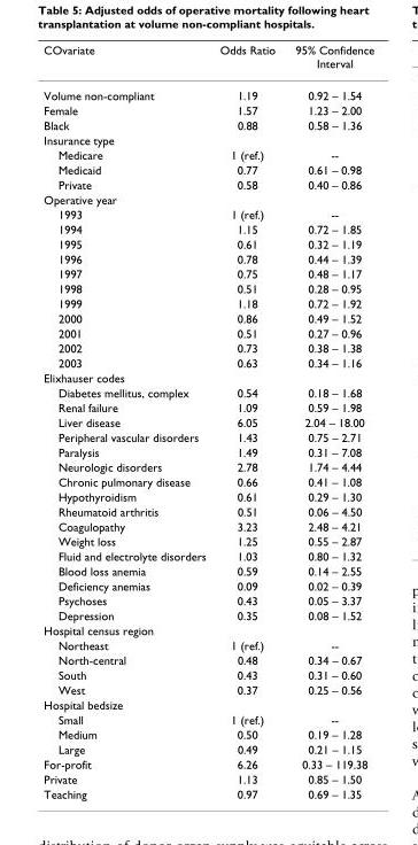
<table><thead><tr><td>COvariate</td><td>Odds Ratio</td><td>95% Confidence Interval</td></tr></thead><tbody><tr><td>Volume non-compliant</td><td>1.19</td><td>0.92 – 1.54</td></tr><tr><td>Female</td><td>1.57</td><td>1.23 – 2.00</td></tr><tr><td>Black</td><td>0.88</td><td>0.58 – 1.36</td></tr><tr><td colspan="3">Insurance type</td></tr><tr><td>Medicare</td><td>1 (ref.)</td><td>--</td></tr><tr><td>Medicaid</td><td>0.77</td><td>0.61 – 0.98</td></tr><tr><td>Private</td><td>0.58</td><td>0.40 – 0.86</td></tr><tr><td colspan="3">Operative year</td></tr><tr><td>1993</td><td>1 (ref.)</td><td>--</td></tr><tr><td>1994</td><td>1.15</td><td>0.72 – 1.85</td></tr><tr><td>1995</td><td>0.61</td><td>0.32 – 1.19</td></tr><tr><td>1996</td><td>0.78</td><td>0.44 – 1.39</td></tr><tr><td>1997</td><td>0.75</td><td>0.48 – 1.17</td></tr><tr><td>1998</td><td>0.51</td><td>0.28 – 0.95</td></tr><tr><td>1999</td><td>1.18</td><td>0.72 – 1.92</td></tr><tr><td>2000</td><td>0.86</td><td>0.49 – 1.52</td></tr><tr><td>2001</td><td>0.51</td><td>0.27 – 0.96</td></tr><tr><td>2002</td><td>0.73</td><td>0.38 – 1.38</td></tr><tr><td>2003</td><td>0.63</td><td>0.34 – 1.16</td></tr><tr><td colspan="3">Elixhauser codes</td></tr><tr><td>Diabetes mellitus, complex</td><td>0.54</td><td>0.18 – 1.68</td></tr><tr><td>Renal failure</td><td>1.09</td><td>0.59 – 1.98</td></tr><tr><td>Liver disease</td><td>6.05</td><td>2.04 – 18.00</td></tr><tr><td>Peripheral vascular disorders</td><td>1.43</td><td>0.75 – 2.71</td></tr><tr><td>Paralysis</td><td>1.49</td><td>0.31 – 7.08</td></tr><tr><td>Neurologic disorders</td><td>2.78</td><td>1.74 – 4.44</td></tr><tr><td>Chronic pulmonary disease</td><td>0.66</td><td>0.41 – 1.08</td></tr><tr><td>Hypothyroidism</td><td>0.61</td><td>0.29 – 1.30</td></tr><tr><td>Rheumatoid arthritis</td><td>0.51</td><td>0.06 – 4.50</td></tr><tr><td>Coagulopathy</td><td>3.23</td><td>2.48 – 4.21</td></tr><tr><td>Weight loss</td><td>1.25</td><td>0.55 – 2.87</td></tr><tr><td>Fluid and electrolyte disorders</td><td>1.03</td><td>0.80 – 1.32</td></tr><tr><td>Blood loss anemia</td><td>0.59</td><td>0.14 – 2.55</td></tr><tr><td>Deficiency anemias</td><td>0.09</td><td>0.02 – 0.39</td></tr><tr><td>Psychoses</td><td>0.43</td><td>0.05 – 3.37</td></tr><tr><td>Depression</td><td>0.35</td><td>0.08 – 1.52</td></tr><tr><td colspan="3">Hospital census region</td></tr><tr><td>Northeast</td><td>1 (ref.)</td><td>--</td></tr><tr><td>North-central</td><td>0.48</td><td>0.34 – 0.67</td></tr><tr><td>South</td><td>0.43</td><td>0.31 – 0.60</td></tr><tr><td>West</td><td>0.37</td><td>0.25 – 0.56</td></tr><tr><td colspan="3">Hospital bedsize</td></tr><tr><td>Small</td><td>1 (ref.)</td><td>--</td></tr><tr><td>Medium</td><td>0.50</td><td>0.19 – 1.28</td></tr><tr><td>Large</td><td>0.49</td><td>0.21 – 1.15</td></tr><tr><td>For-profit</td><td>6.26</td><td>0.33 – 119.38</td></tr><tr><td>Private</td><td>1.13</td><td>0.85 – 1.50</td></tr><tr><td>Teaching</td><td>0.97</td><td>0.69 – 1.35</td></tr></tbody></table>